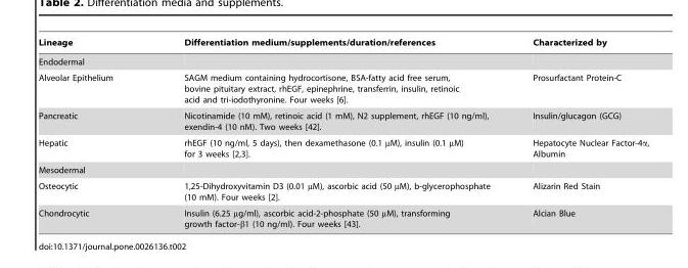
<table><thead><tr><td>Lineage</td><td>Differentiation medium/supplements/duration/references</td><td>Characterized by</td></tr></thead><tbody><tr><td colspan="3">Endodermal</td></tr><tr><td>Alveolar Epithelium</td><td>SAGM medium containing hydrocortisone, BSA-fatty acid free serum, bovine pituitary extract, rhEGF, epinephrine, transferrin, insulin, retinoic acid and tri-iodothyronine. Four weeks [6].</td><td>Prosurfactant Protein-C</td></tr><tr><td>Pancreatic</td><td>Nicotinamide (10 mM), retinoic acid (1 mM), N2 supplement, rhEGF (10 ng/ml), exendin-4 (10 nM). Two weeks [42].</td><td>Insulin/glucagon (GCG)</td></tr><tr><td>Hepatic</td><td>rhEGF (10 ng/ml, 5 days), then dexamethasone (0.1 mM), insulin (0.1 mM) for 3 weeks [2,3].</td><td>Hepatocyte Nuclear Factor-4α, Albumin</td></tr><tr><td colspan="3">Mesodermal</td></tr><tr><td>Osteocytic</td><td>1,25-Dihydroxyvitamin D3 (0.01 µM), ascorbic acid (50 µM), b-glycerophosphate (10 mM). Four weeks [2].</td><td>Alizarin Red Stain</td></tr><tr><td>Chondrocytic</td><td>Insulin (6.25 µg/ml), ascorbic acid-2-phosphate (50 µM), transforming growth factor-β1 (10 ng/ml). Four weeks [43].</td><td>Alcian Blue</td></tr></tbody></table>